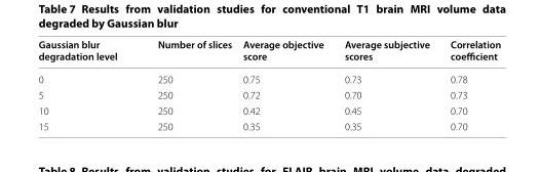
<table><thead><tr><td>Gaussian blur degradation level</td><td>Number of slices</td><td>Average objective score</td><td>Average subjective scores</td><td>Correlation coefficient</td></tr></thead><tbody><tr><td>0</td><td>250</td><td>0.75</td><td>0.73</td><td>0.78</td></tr><tr><td>5</td><td>250</td><td>0.72</td><td>0.70</td><td>0.73</td></tr><tr><td>10</td><td>250</td><td>0.42</td><td>0.45</td><td>0.70</td></tr><tr><td>15</td><td>250</td><td>0.35</td><td>0.35</td><td>0.70</td></tr></tbody></table>